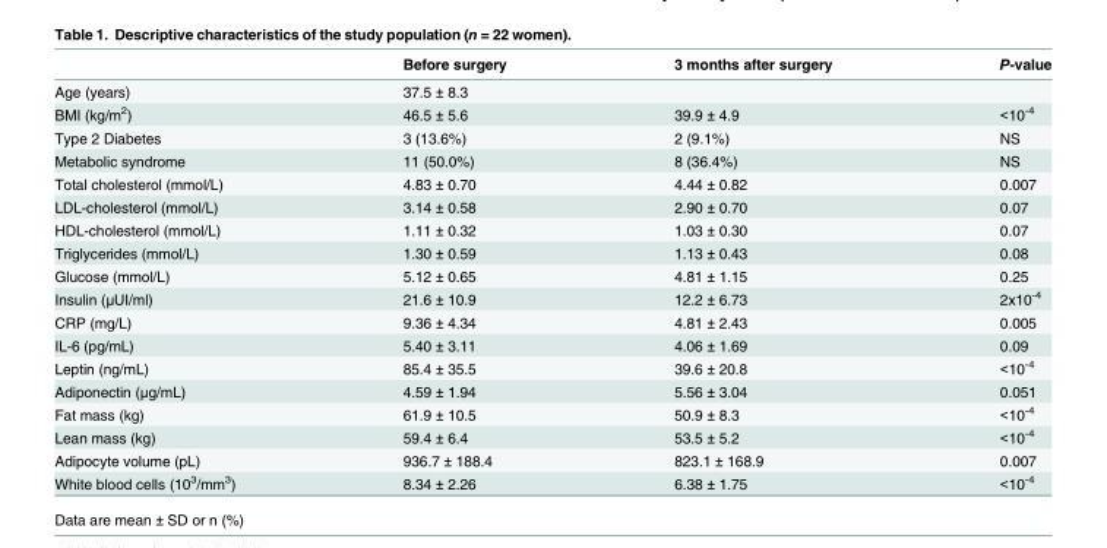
<table><thead><tr><td></td><td>Before surgery</td><td>3 months after surgery</td><td>P-value</td></tr></thead><tbody><tr><td>Age (years)</td><td>37.5 ± 8.3</td><td></td><td></td></tr><tr><td>BMI (kg/m<sup>2</sup>)</td><td>46.5 ± 5.6</td><td>39.9 ± 4.9</td><td>&lt;10<sup>-4</sup></td></tr><tr><td>Type 2 Diabetes</td><td>3 (13.6%)</td><td>2 (9.1%)</td><td>NS</td></tr><tr><td>Metabolic syndrome</td><td>11 (50.0%)</td><td>8 (36.4%)</td><td>NS</td></tr><tr><td>Total cholesterol (mmol/L)</td><td>4.83 ± 0.70</td><td>4.44 ± 0.82</td><td>0.007</td></tr><tr><td>LDL-cholesterol (mmol/L)</td><td>3.14 ± 0.58</td><td>2.90 ± 0.70</td><td>0.07</td></tr><tr><td>HDL-cholesterol (mmol/L)</td><td>1.11 ± 0.32</td><td>1.03 ± 0.30</td><td>0.07</td></tr><tr><td>Triglycerides (mmol/L)</td><td>1.30 ± 0.59</td><td>1.13 ± 0.43</td><td>0.08</td></tr><tr><td>Glucose (mmol/L)</td><td>5.12 ± 0.65</td><td>4.81 ± 1.15</td><td>0.25</td></tr><tr><td>Insulin (μUI/ml)</td><td>21.6 ± 10.9</td><td>12.2 ± 6.73</td><td>2x10<sup>-4</sup></td></tr><tr><td>CRP (mg/L)</td><td>9.36 ± 4.34</td><td>4.81 ± 2.43</td><td>0.005</td></tr><tr><td>IL-6 (pg/mL)</td><td>5.40 ± 3.11</td><td>4.06 ± 1.69</td><td>0.09</td></tr><tr><td>Leptin (ng/mL)</td><td>85.4 ± 35.5</td><td>39.6 ± 20.8</td><td>&lt;10<sup>-4</sup></td></tr><tr><td>Adiponectin (μg/mL)</td><td>4.59 ± 1.94</td><td>5.56 ± 3.04</td><td>0.051</td></tr><tr><td>Fat mass (kg)</td><td>61.9 ± 10.5</td><td>50.9 ± 8.3</td><td>&lt;10<sup>-4</sup></td></tr><tr><td>Lean mass (kg)</td><td>59.4 ± 6.4</td><td>53.5 ± 5.2</td><td>&lt;10<sup>-4</sup></td></tr><tr><td>Adipocyte volume (pL)</td><td>936.7 ± 188.4</td><td>823.1 ± 168.9</td><td>0.007</td></tr><tr><td>White blood cells (10<sup>3</sup>/mm<sup>3</sup>)</td><td>8.34 ± 2.26</td><td>6.38 ± 1.75</td><td>&lt;10<sup>-4</sup></td></tr></tbody></table>